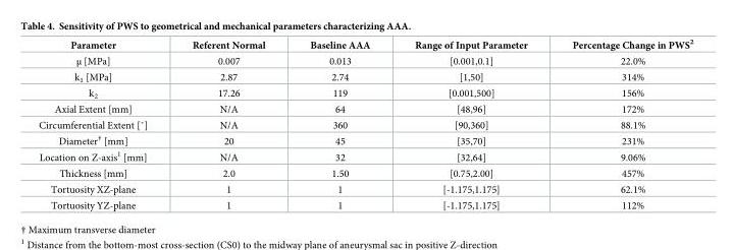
<table><thead><tr><td>Parameter</td><td>Referent Normal</td><td>Baseline AAA</td><td>Range of Input Parameter</td><td>Percentage Change in PWS<sup>2</sup></td></tr></thead><tbody><tr><td>μ [MPa]</td><td>0.007</td><td>0.013</td><td>[0.001,0.1]</td><td>22.0%</td></tr><tr><td>k<sub>1</sub> [MPa]</td><td>2.87</td><td>2.74</td><td>[1,50]</td><td>314%</td></tr><tr><td>k<sub>2</sub></td><td>17.26</td><td>119</td><td>[0.001,500]</td><td>156%</td></tr><tr><td>Axial Extent [mm]</td><td>N/A</td><td>64</td><td>[48,96]</td><td>172%</td></tr><tr><td>Circumferential Extent [˚]</td><td>N/A</td><td>360</td><td>[90,360]</td><td>88.1%</td></tr><tr><td>Diameter<sup>†</sup> [mm]</td><td>20</td><td>45</td><td>[35,70]</td><td>231%</td></tr><tr><td>Location on Z-axis<sup>1</sup> [mm]</td><td>N/A</td><td>32</td><td>[32,64]</td><td>9.06%</td></tr><tr><td>Thickness [mm]</td><td>2.0</td><td>1.50</td><td>[0.75,2.00]</td><td>457%</td></tr><tr><td>Tortuosity XZ-plane</td><td>1</td><td>1</td><td>[-1.175,1.175]</td><td>62.1%</td></tr><tr><td>Tortuosity YZ-plane</td><td>1</td><td>1</td><td>[-1.175,1.175]</td><td>112%</td></tr></tbody></table>